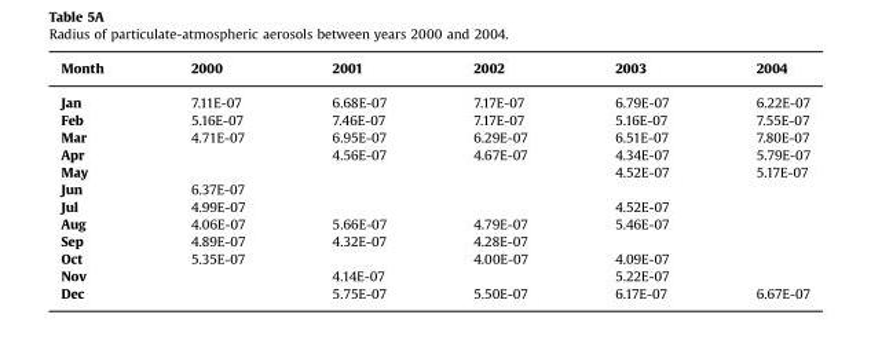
<table><thead><tr><td>Month</td><td>2000</td><td>2001</td><td>2002</td><td>2003</td><td>2004</td></tr></thead><tbody><tr><td>Jan</td><td>7.11E-07</td><td>6.68E-07</td><td>7.17E-07</td><td>6.79E-07</td><td>6.22E-07</td></tr><tr><td>Feb</td><td>5.16E-07</td><td>7.46E-07</td><td>7.17E-07</td><td>5.16E-07</td><td>7.55E-07</td></tr><tr><td>Mar</td><td>4.71E-07</td><td>6.95E-07</td><td>6.29E-07</td><td>6.51E-07</td><td>7.80E-07</td></tr><tr><td>Apr</td><td></td><td>4.56E-07</td><td>4.67E-07</td><td>4.34E-07</td><td>5.79E-07</td></tr><tr><td>May</td><td></td><td></td><td></td><td>4.52E-07</td><td>5.17E-07</td></tr><tr><td>Jun</td><td>6.37E-07</td><td></td><td></td><td></td><td></td></tr><tr><td>Jul</td><td>4.99E-07</td><td></td><td></td><td>4.52E-07</td><td></td></tr><tr><td>Aug</td><td>4.06E-07</td><td>5.66E-07</td><td>4.79E-07</td><td>5.46E-07</td><td></td></tr><tr><td>Sep</td><td>4.89E-07</td><td>4.32E-07</td><td>4.28E-07</td><td></td><td></td></tr><tr><td>Oct</td><td>5.35E-07</td><td></td><td>4.00E-07</td><td>4.09E-07</td><td></td></tr><tr><td>Nov</td><td></td><td>4.14E-07</td><td></td><td>5.22E-07</td><td></td></tr><tr><td>Dec</td><td></td><td>5.75E-07</td><td>5.50E-07</td><td>6.17E-07</td><td>6.67E-07</td></tr></tbody></table>